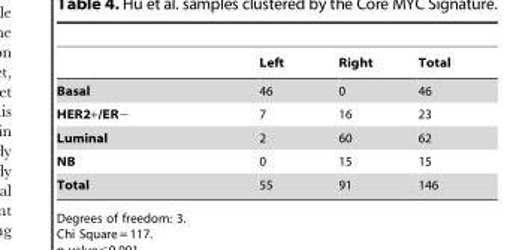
<table><thead><tr><td></td><td>Left</td><td>Right</td><td>Total</td></tr></thead><tbody><tr><td>Basal</td><td>46</td><td>0</td><td>46</td></tr><tr><td>HER2+/ER−</td><td>7</td><td>16</td><td>23</td></tr><tr><td>Luminal</td><td>2</td><td>60</td><td>62</td></tr><tr><td>NB</td><td>0</td><td>15</td><td>15</td></tr><tr><td>Total</td><td>55</td><td>91</td><td>146</td></tr></tbody></table>